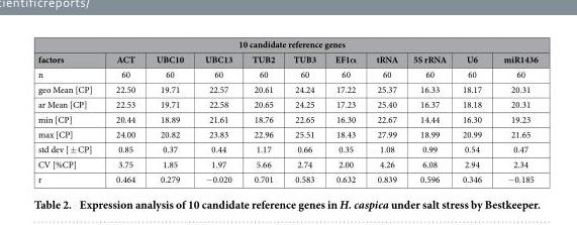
<table><thead><tr><td colspan="11">10 candidate reference genes</td></tr><tr><td>factors</td><td>ACT</td><td>UBC10</td><td>UBC13</td><td>TUB2</td><td>TUB3</td><td>EF1α</td><td>tRNA</td><td>5S rRNA</td><td>U6</td><td>miR1436</td></tr></thead><tbody><tr><td>n</td><td>60</td><td>60</td><td>60</td><td>60</td><td>60</td><td>60</td><td>60</td><td>60</td><td>60</td><td>60</td></tr><tr><td>geo Mean [CP]</td><td>22.50</td><td>19.71</td><td>22.57</td><td>20.61</td><td>24.24</td><td>17.22</td><td>25.37</td><td>16.33</td><td>18.17</td><td>20.31</td></tr><tr><td>ar Mean [CP]</td><td>22.53</td><td>19.71</td><td>22.58</td><td>20.65</td><td>24.25</td><td>17.23</td><td>25.40</td><td>16.37</td><td>18.18</td><td>20.31</td></tr><tr><td>min [CP]</td><td>20.44</td><td>18.89</td><td>21.61</td><td>18.76</td><td>22.65</td><td>16.30</td><td>22.67</td><td>14.44</td><td>16.30</td><td>19.23</td></tr><tr><td>max [CP]</td><td>24.00</td><td>20.82</td><td>23.83</td><td>22.96</td><td>25.51</td><td>18.43</td><td>27.99</td><td>18.99</td><td>20.99</td><td>21.65</td></tr><tr><td>std dev [ ± CP]</td><td>0.85</td><td>0.37</td><td>0.44</td><td>1.17</td><td>0.66</td><td>0.35</td><td>1.08</td><td>0.99</td><td>0.54</td><td>0.47</td></tr><tr><td>CV [%CP]</td><td>3.75</td><td>1.85</td><td>1.97</td><td>5.66</td><td>2.74</td><td>2.00</td><td>4.26</td><td>6.08</td><td>2.94</td><td>2.34</td></tr><tr><td>r</td><td>0.464</td><td>0.279</td><td>− 0.020</td><td>0.701</td><td>0.583</td><td>0.632</td><td>0.839</td><td>0.596</td><td>0.346</td><td>− 0.185</td></tr></tbody></table>